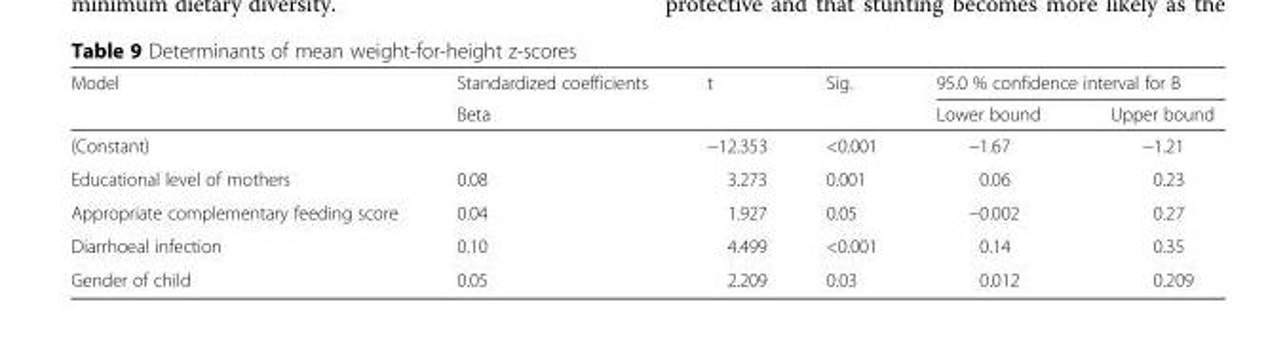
<table><thead><tr><td rowspan="2">Model</td><td rowspan="2">Standardized coefficients Beta</td><td rowspan="2">t</td><td rowspan="2">Sig.</td><td colspan="2">95.0 % confidence interval for B</td></tr><tr><td>Lower bound</td><td>Upper bound</td></tr></thead><tbody><tr><td>(Constant)</td><td></td><td>−12.353</td><td>&lt;0.001</td><td>−1.67</td><td>−1.21</td></tr><tr><td>Educational level of mothers</td><td>0.08</td><td>3.273</td><td>0.001</td><td>0.06</td><td>0.23</td></tr><tr><td>Appropriate complementary feeding score</td><td>0.04</td><td>1.927</td><td>0.05</td><td>−0.002</td><td>0.27</td></tr><tr><td>Diarrhoeal infection</td><td>0.10</td><td>4.499</td><td>&lt;0.001</td><td>0.14</td><td>0.35</td></tr><tr><td>Gender of child</td><td>0.05</td><td>2.209</td><td>0.03</td><td>0.012</td><td>0.209</td></tr></tbody></table>